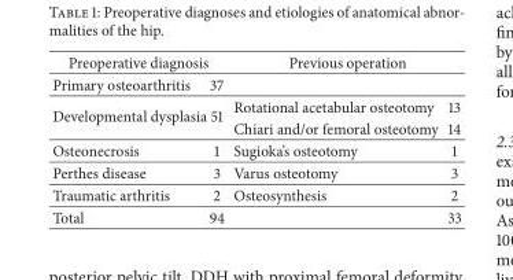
<table><thead><tr><td colspan="2">Preoperative diagnosis</td><td colspan="2">Previous operation</td></tr><tr><td>Primary osteoarthritis</td><td>37</td><td></td><td></td></tr></thead><tbody><tr><td rowspan="2">Developmental dysplasia</td><td rowspan="2">51</td><td>Rotational acetabular osteotomy</td><td>13</td></tr><tr><td>Chiari and/or femoral osteotomy</td><td>14</td></tr><tr><td>Osteonecrosis</td><td>1</td><td>Sugioka’s osteotomy</td><td>1</td></tr><tr><td>Perthes disease</td><td>3</td><td>Varus osteotomy</td><td>3</td></tr><tr><td>Traumatic arthritis</td><td>2</td><td>Osteosynthesis</td><td>2</td></tr><tr><td>Total</td><td>94</td><td></td><td>33</td></tr></tbody></table>